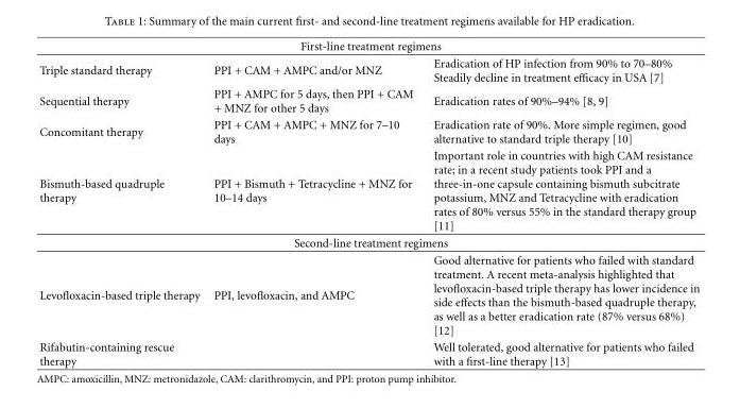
<table><thead><tr><td colspan="3">First-line treatment regimens</td></tr><tr><td>Triple standard therapy</td><td>PPI + CAM + AMPC and/or MNZ</td><td>Eradication of HP infection from 90% to 70–80% Steadily decline in treatment efficacy in USA [7]</td></tr></thead><tbody><tr><td>Sequential therapy</td><td>PPI + AMPC for 5 days, then PPI + CAM + MNZ for other 5 days</td><td>Eradication rates of 90%–94% [8, 9]</td></tr><tr><td>Concomitant therapy</td><td>PPI + CAM + AMPC + MNZ for 7–10 days</td><td>Eradication rate of 90%. More simple regimen, good alternative to standard triple therapy [10]</td></tr><tr><td>Bismuth-based quadruple therapy</td><td>PPI + Bismuth + Tetracycline + MNZ for 10–14 days</td><td>Important role in countries with high CAM resistance rate; in a recent study patients took PPI and a three-in-one capsule containing bismuth subcitrate potassium, MNZ and Tetracycline with eradication rates of 80% versus 55% in the standard therapy group [11]</td></tr><tr><td colspan="3">Second-line treatment regimens</td></tr><tr><td>Levofloxacin-based triple therapy</td><td>PPI, levofloxacin, and AMPC</td><td>Good alternative for patients who failed with standard treatment. A recent meta-analysis highlighted that levofloxacin-based triple therapy has lower incidence in side effects than the bismuth-based quadruple therapy, as well as a better eradication rate (87% versus 68%) [12]</td></tr><tr><td>Rifabutin-containing rescue therapy</td><td></td><td>Well tolerated, good alternative for patients who failed with a first-line therapy [13]</td></tr></tbody></table>